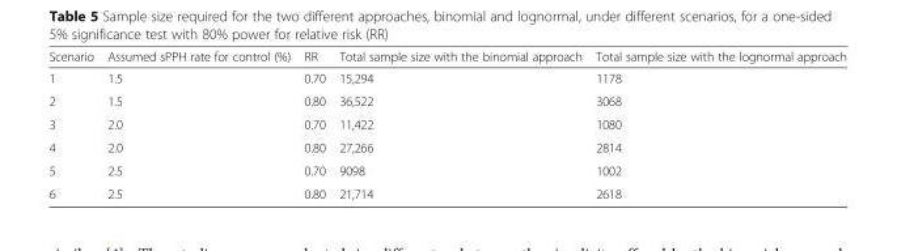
<table><thead><tr><td>Scenario</td><td>Assumed sPPH rate for control (%)</td><td>RR</td><td>Total sample size with the binomial approach</td><td>Total sample size with the lognormal approach</td></tr></thead><tbody><tr><td>1</td><td>1.5</td><td>0.70</td><td>15,294</td><td>1178</td></tr><tr><td>2</td><td>1.5</td><td>0.80</td><td>36,522</td><td>3068</td></tr><tr><td>3</td><td>2.0</td><td>0.70</td><td>11,422</td><td>1080</td></tr><tr><td>4</td><td>2.0</td><td>0.80</td><td>27,266</td><td>2814</td></tr><tr><td>5</td><td>2.5</td><td>0.70</td><td>9098</td><td>1002</td></tr><tr><td>6</td><td>2.5</td><td>0.80</td><td>21,714</td><td>2618</td></tr></tbody></table>